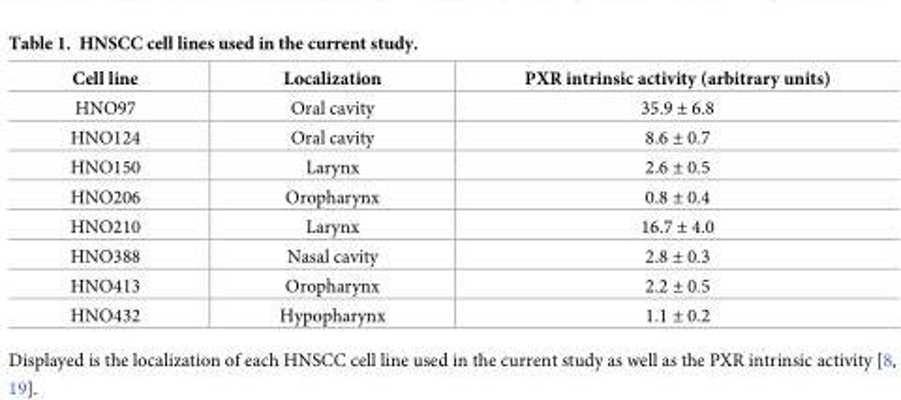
<table><thead><tr><td>Cell line</td><td>Localization</td><td>PXR intrinsic activity (arbitrary units)</td></tr></thead><tbody><tr><td>HNO97</td><td>Oral cavity</td><td>35.9 ± 6.8</td></tr><tr><td>HNO124</td><td>Oral cavity</td><td>8.6 ± 0.7</td></tr><tr><td>HNO150</td><td>Larynx</td><td>2.6 ± 0.5</td></tr><tr><td>HNO206</td><td>Oropharynx</td><td>0.8 ± 0.4</td></tr><tr><td>HNO210</td><td>Larynx</td><td>16.7 ± 4.0</td></tr><tr><td>HNO388</td><td>Nasal cavity</td><td>2.8 ± 0.3</td></tr><tr><td>HNO413</td><td>Oropharynx</td><td>2.2 ± 0.5</td></tr><tr><td>HNO432</td><td>Hypopharynx</td><td>1.1 ± 0.2</td></tr></tbody></table>